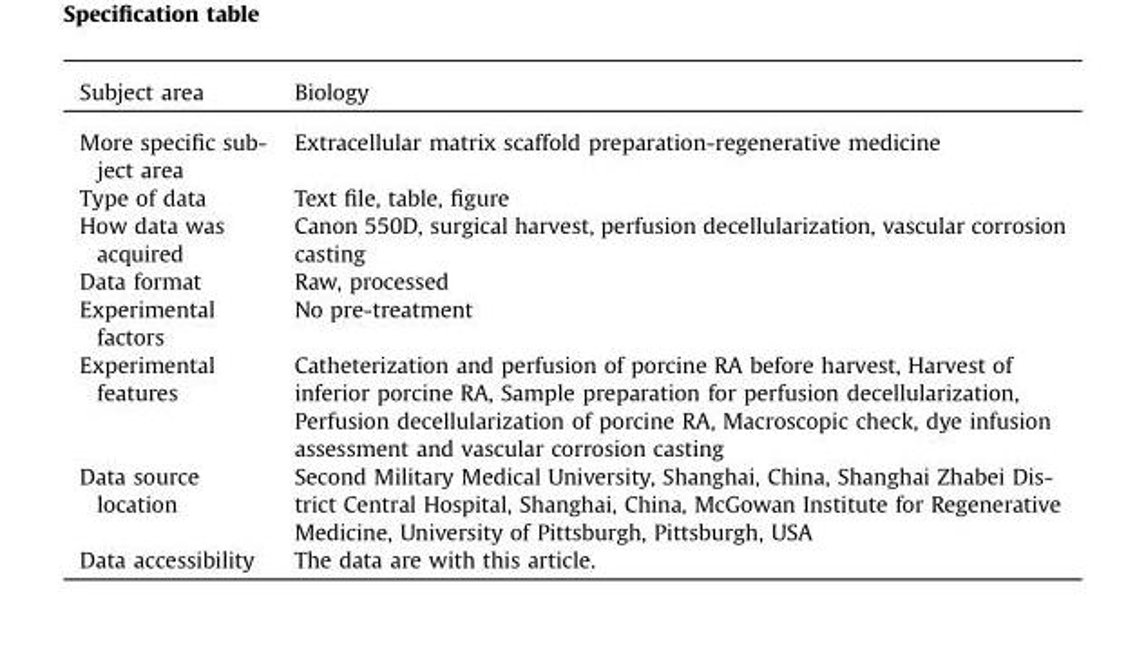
<table><tbody><tr><td>Subject area</td><td>Biology</td></tr><tr><td>More specific sub- ject area</td><td>Extracellular matrix scaffold preparation-regenerative medicine</td></tr><tr><td>Type of data</td><td>Text file, table, figure</td></tr><tr><td>How data was acquired</td><td>Canon 550D, surgical harvest, perfusion decellularization, vascular corrosion casting</td></tr><tr><td>Data format</td><td>Raw, processed</td></tr><tr><td>Experimental factors</td><td>No pre-treatment</td></tr><tr><td>Experimental features</td><td>Catheterization and perfusion of porcine RA before harvest, Harvest of inferior porcine RA, Sample preparation for perfusion decellularization, Perfusion decellularization of porcine RA, Macroscopic check, dye infusion assessment and vascular corrosion casting</td></tr><tr><td>Data source location</td><td>Second Military Medical University, Shanghai, China, Shanghai Zhabei Dis- trict Central Hospital, Shanghai, China, McGowan Institute for Regenerative Medicine, University of Pittsburgh, Pittsburgh, USA</td></tr><tr><td>Data accessibility</td><td>The data are with this article.</td></tr></tbody></table>